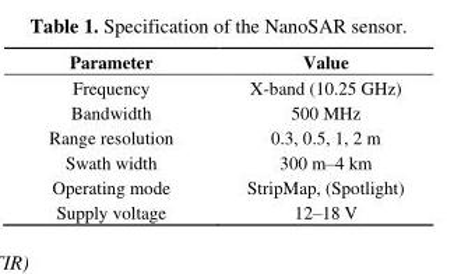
<table><thead><tr><td>Parameter</td><td>Value</td></tr></thead><tbody><tr><td>Frequency</td><td>X-band (10.25 GHz)</td></tr><tr><td>Bandwidth</td><td>500 MHz</td></tr><tr><td>Range resolution</td><td>0.3, 0.5, 1, 2 m</td></tr><tr><td>Swath width</td><td>300 m–4 km</td></tr><tr><td>Operating mode</td><td>StripMap, (Spotlight)</td></tr><tr><td>Supply voltage</td><td>12–18 V</td></tr></tbody></table>